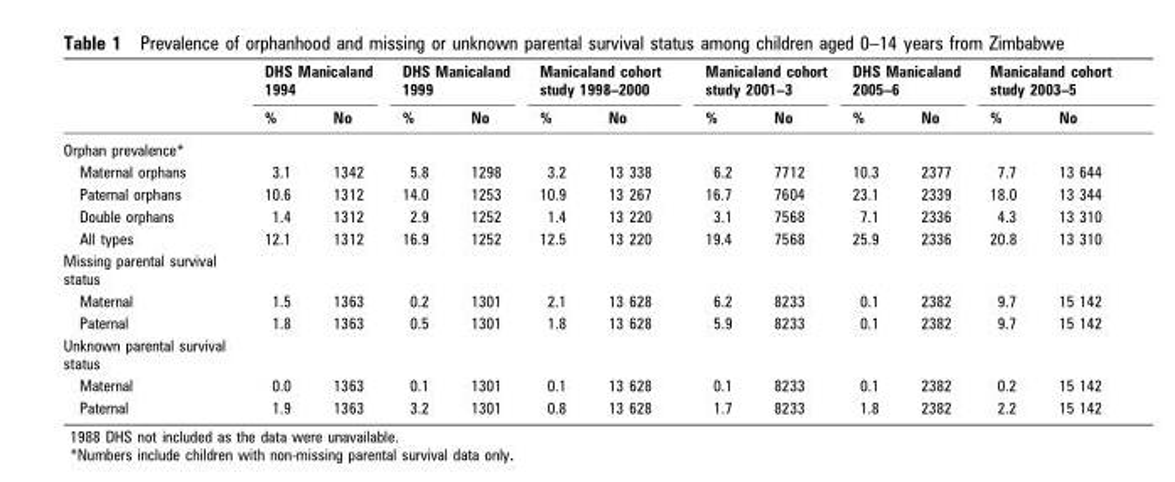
<table><thead><tr><td rowspan="2"></td><td colspan="2">DHS Manicaland 1994</td><td colspan="2">DHS Manicaland 1999</td><td colspan="2">Manicaland cohort study 1998–2000</td><td colspan="2">Manicaland cohort study 2001–3</td><td colspan="2">DHS Manicaland 2005–6</td><td colspan="2">Manicaland cohort study 2003–5</td></tr><tr><td>%</td><td>No</td><td>%</td><td>No</td><td>%</td><td>No</td><td>%</td><td>No</td><td>%</td><td>No</td><td>%</td><td>No</td></tr></thead><tbody><tr><td colspan="13">Orphan prevalence*</td></tr><tr><td>Maternal orphans</td><td>3.1</td><td>1342</td><td>5.8</td><td>1298</td><td>3.2</td><td>13 338</td><td>6.2</td><td>7712</td><td>10.3</td><td>2377</td><td>7.7</td><td>13 644</td></tr><tr><td>Paternal orphans</td><td>10.6</td><td>1312</td><td>14.0</td><td>1253</td><td>10.9</td><td>13 267</td><td>16.7</td><td>7604</td><td>23.1</td><td>2339</td><td>18.0</td><td>13 344</td></tr><tr><td>Double orphans</td><td>1.4</td><td>1312</td><td>2.9</td><td>1252</td><td>1.4</td><td>13 220</td><td>3.1</td><td>7568</td><td>7.1</td><td>2336</td><td>4.3</td><td>13 310</td></tr><tr><td>All types</td><td>12.1</td><td>1312</td><td>16.9</td><td>1252</td><td>12.5</td><td>13 220</td><td>19.4</td><td>7568</td><td>25.9</td><td>2336</td><td>20.8</td><td>13 310</td></tr><tr><td colspan="13">Missing parental survival status</td></tr><tr><td>Maternal</td><td>1.5</td><td>1363</td><td>0.2</td><td>1301</td><td>2.1</td><td>13 628</td><td>6.2</td><td>8233</td><td>0.1</td><td>2382</td><td>9.7</td><td>15 142</td></tr><tr><td>Paternal</td><td>1.8</td><td>1363</td><td>0.5</td><td>1301</td><td>1.8</td><td>13 628</td><td>5.9</td><td>8233</td><td>0.1</td><td>2382</td><td>9.7</td><td>15 142</td></tr><tr><td colspan="13">Unknown parental survival status</td></tr><tr><td>Maternal</td><td>0.0</td><td>1363</td><td>0.1</td><td>1301</td><td>0.1</td><td>13 628</td><td>0.1</td><td>8233</td><td>0.1</td><td>2382</td><td>0.2</td><td>15 142</td></tr><tr><td>Paternal</td><td>1.9</td><td>1363</td><td>3.2</td><td>1301</td><td>0.8</td><td>13 628</td><td>1.7</td><td>8233</td><td>1.8</td><td>2382</td><td>2.2</td><td>15 142</td></tr></tbody></table>